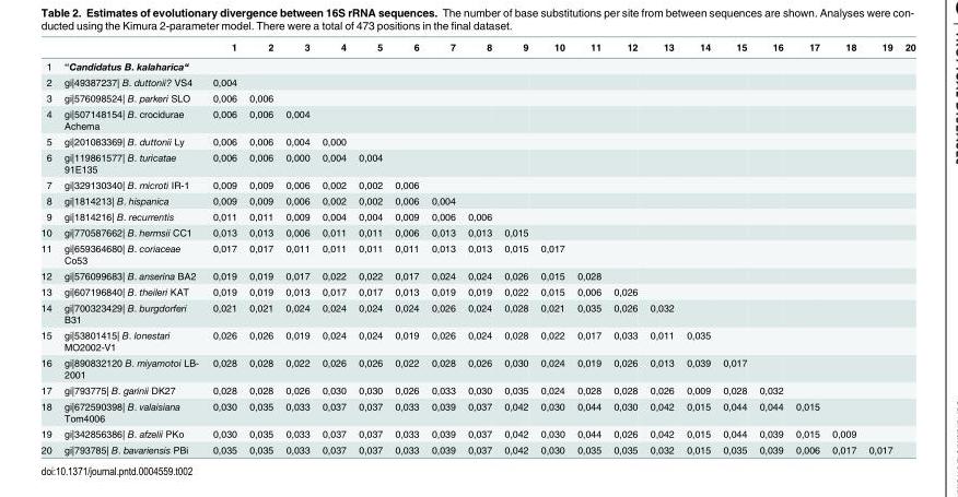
<table><thead><tr><td></td><td></td><td>1</td><td>2</td><td>3</td><td>4</td><td>5</td><td>6</td><td>7</td><td>8</td><td>9</td><td>10</td><td>11</td><td>12</td><td>13</td><td>14</td><td>15</td><td>16</td><td>17</td><td>18</td><td>19</td><td>20</td></tr></thead><tbody><tr><td>1</td><td>“Candidatus B. kalaharica“</td><td></td><td></td><td></td><td></td><td></td><td></td><td></td><td></td><td></td><td></td><td></td><td></td><td></td><td></td><td></td><td></td><td></td><td></td><td></td><td></td></tr><tr><td>2</td><td>gi|49387237| B. duttonii? VS4</td><td>0,004</td><td></td><td></td><td></td><td></td><td></td><td></td><td></td><td></td><td></td><td></td><td></td><td></td><td></td><td></td><td></td><td></td><td></td><td></td><td></td></tr><tr><td>3</td><td>gi|576098524| B. parkeri SLO</td><td>0,006</td><td>0,006</td><td></td><td></td><td></td><td></td><td></td><td></td><td></td><td></td><td></td><td></td><td></td><td></td><td></td><td></td><td></td><td></td><td></td><td></td></tr><tr><td>4</td><td>gi|507148154| B. crocidurae Achema</td><td>0,006</td><td>0,006</td><td>0,004</td><td></td><td></td><td></td><td></td><td></td><td></td><td></td><td></td><td></td><td></td><td></td><td></td><td></td><td></td><td></td><td></td><td></td></tr><tr><td>5</td><td>gi|201083369| B. duttonii Ly</td><td>0,006</td><td>0,006</td><td>0,004</td><td>0,000</td><td></td><td></td><td></td><td></td><td></td><td></td><td></td><td></td><td></td><td></td><td></td><td></td><td></td><td></td><td></td><td></td></tr><tr><td>6</td><td>gi|119861577| B. turicatae 91E135</td><td>0,006</td><td>0,006</td><td>0,000</td><td>0,004</td><td>0,004</td><td></td><td></td><td></td><td></td><td></td><td></td><td></td><td></td><td></td><td></td><td></td><td></td><td></td><td></td><td></td></tr><tr><td>7</td><td>gi|329130340| B. microti IR-1</td><td>0,009</td><td>0,009</td><td>0,006</td><td>0,002</td><td>0,002</td><td>0,006</td><td></td><td></td><td></td><td></td><td></td><td></td><td></td><td></td><td></td><td></td><td></td><td></td><td></td><td></td></tr><tr><td>8</td><td>gi|1814213| B. hispanica</td><td>0,009</td><td>0,009</td><td>0,006</td><td>0,002</td><td>0,002</td><td>0,006</td><td>0,004</td><td></td><td></td><td></td><td></td><td></td><td></td><td></td><td></td><td></td><td></td><td></td><td></td><td></td></tr><tr><td>9</td><td>gi|1814216| B. recurrentis</td><td>0,011</td><td>0,011</td><td>0,009</td><td>0,004</td><td>0,004</td><td>0,009</td><td>0,006</td><td>0,006</td><td></td><td></td><td></td><td></td><td></td><td></td><td></td><td></td><td></td><td></td><td></td><td></td></tr><tr><td>10</td><td>gi|770587662| B. hermsii CC1</td><td>0,013</td><td>0,013</td><td>0,006</td><td>0,011</td><td>0,011</td><td>0,006</td><td>0,013</td><td>0,013</td><td>0,015</td><td></td><td></td><td></td><td></td><td></td><td></td><td></td><td></td><td></td><td></td><td></td></tr><tr><td>11</td><td>gi|659364680| B. coriaceae Co53</td><td>0,017</td><td>0,017</td><td>0,011</td><td>0,011</td><td>0,011</td><td>0,011</td><td>0,013</td><td>0,013</td><td>0,015</td><td>0,017</td><td></td><td></td><td></td><td></td><td></td><td></td><td></td><td></td><td></td><td></td></tr><tr><td>12</td><td>gi|576099683| B. anserina BA2</td><td>0,019</td><td>0,019</td><td>0,017</td><td>0,022</td><td>0,022</td><td>0,017</td><td>0,024</td><td>0,024</td><td>0,026</td><td>0,015</td><td>0,028</td><td></td><td></td><td></td><td></td><td></td><td></td><td></td><td></td><td></td></tr><tr><td>13</td><td>gi|607196840| B. theileri KAT</td><td>0,019</td><td>0,019</td><td>0,013</td><td>0,017</td><td>0,017</td><td>0,013</td><td>0,019</td><td>0,019</td><td>0,022</td><td>0,015</td><td>0,006</td><td>0,026</td><td></td><td></td><td></td><td></td><td></td><td></td><td></td><td></td></tr><tr><td>14</td><td>gi|700323429| B. burgdorferi B31</td><td>0,021</td><td>0,021</td><td>0,024</td><td>0,024</td><td>0,024</td><td>0,024</td><td>0,026</td><td>0,024</td><td>0,028</td><td>0,021</td><td>0,035</td><td>0,026</td><td>0,032</td><td></td><td></td><td></td><td></td><td></td><td></td><td></td></tr><tr><td>15</td><td>gi|53801415| B. lonestari MO2002-V1</td><td>0,026</td><td>0,026</td><td>0,019</td><td>0,024</td><td>0,024</td><td>0,019</td><td>0,026</td><td>0,024</td><td>0,028</td><td>0,022</td><td>0,017</td><td>0,033</td><td>0,011</td><td>0,035</td><td></td><td></td><td></td><td></td><td></td><td></td></tr><tr><td>16</td><td>gi|890832120 B. miyamotoi LB- 2001</td><td>0,028</td><td>0,028</td><td>0,022</td><td>0,026</td><td>0,026</td><td>0,022</td><td>0,028</td><td>0,026</td><td>0,030</td><td>0,024</td><td>0,019</td><td>0,026</td><td>0,013</td><td>0,039</td><td>0,017</td><td></td><td></td><td></td><td></td><td></td></tr><tr><td>17</td><td>gi|793775| B. garinii DK27</td><td>0,028</td><td>0,028</td><td>0,026</td><td>0,030</td><td>0,030</td><td>0,026</td><td>0,033</td><td>0,030</td><td>0,035</td><td>0,024</td><td>0,028</td><td>0,028</td><td>0,026</td><td>0,009</td><td>0,028</td><td>0,032</td><td></td><td></td><td></td><td></td></tr><tr><td>18</td><td>gi|672590398| B. valaisiana Tom4006</td><td>0,030</td><td>0,035</td><td>0,033</td><td>0,037</td><td>0,037</td><td>0,033</td><td>0,039</td><td>0,037</td><td>0,042</td><td>0,030</td><td>0,044</td><td>0,030</td><td>0,042</td><td>0,015</td><td>0,044</td><td>0,044</td><td>0,015</td><td></td><td></td><td></td></tr><tr><td>19</td><td>gi|342856386| B. afzelii PKo</td><td>0,030</td><td>0,035</td><td>0,033</td><td>0,037</td><td>0,037</td><td>0,033</td><td>0,039</td><td>0,037</td><td>0,042</td><td>0,030</td><td>0,044</td><td>0,026</td><td>0,042</td><td>0,015</td><td>0,044</td><td>0,039</td><td>0,015</td><td>0,009</td><td></td><td></td></tr><tr><td>20</td><td>gi|793785| B. bavariensis PBi</td><td>0,035</td><td>0,035</td><td>0,033</td><td>0,037</td><td>0,037</td><td>0,033</td><td>0,039</td><td>0,037</td><td>0,042</td><td>0,030</td><td>0,035</td><td>0,035</td><td>0,032</td><td>0,015</td><td>0,035</td><td>0,039</td><td>0,006</td><td>0,017</td><td>0,017</td><td></td></tr></tbody></table>